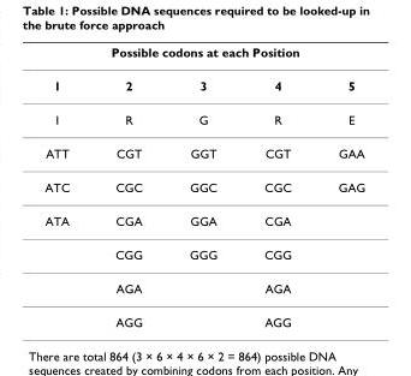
<table><thead><tr><td colspan="5">Possible codons at each Position</td></tr><tr><td>1</td><td>2</td><td>3</td><td>4</td><td>5</td></tr></thead><tbody><tr><td>I</td><td>R</td><td>G</td><td>R</td><td>E</td></tr><tr><td>ATT</td><td>CGT</td><td>GGT</td><td>CGT</td><td>GAA</td></tr><tr><td>ATC</td><td>CGC</td><td>GGC</td><td>CGC</td><td>GAG</td></tr><tr><td rowspan="4">ATA</td><td>CGA</td><td>GGA</td><td>CGA</td><td></td></tr><tr><td>CGG</td><td>GGG</td><td>CGG</td><td></td></tr><tr><td>AGA</td><td></td><td>AGA</td><td></td></tr><tr><td>AGG</td><td></td><td>AGG</td><td></td></tr></tbody></table>